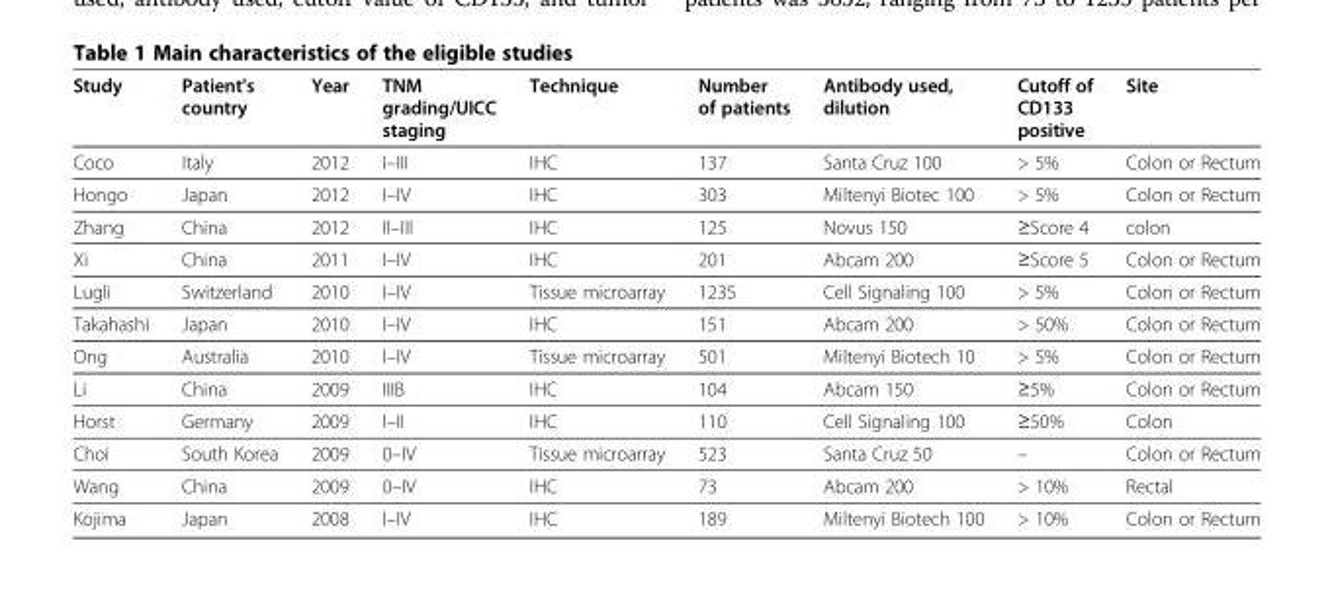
<table><thead><tr><td>Study</td><td>Patient&#x27;s country</td><td>Year</td><td>TNM grading/UICC staging</td><td>Technique</td><td>Number of patients</td><td>Antibody used, dilution</td><td>Cutoff of CD133 positive</td><td>Site</td></tr></thead><tbody><tr><td>Coco</td><td>Italy</td><td>2012</td><td>I–III</td><td>IHC</td><td>137</td><td>Santa Cruz 100</td><td>&gt; 5%</td><td>Colon or Rectum</td></tr><tr><td>Hongo</td><td>Japan</td><td>2012</td><td>I–IV</td><td>IHC</td><td>303</td><td>Miltenyi Biotec 100</td><td>&gt; 5%</td><td>Colon or Rectum</td></tr><tr><td>Zhang</td><td>China</td><td>2012</td><td>II–III</td><td>IHC</td><td>125</td><td>Novus 150</td><td>≥Score 4</td><td>colon</td></tr><tr><td>Xi</td><td>China</td><td>2011</td><td>I–IV</td><td>IHC</td><td>201</td><td>Abcam 200</td><td>≥Score 5</td><td>Colon or Rectum</td></tr><tr><td>Lugli</td><td>Switzerland</td><td>2010</td><td>I–IV</td><td>Tissue microarray</td><td>1235</td><td>Cell Signaling 100</td><td>&gt; 5%</td><td>Colon or Rectum</td></tr><tr><td>Takahashi</td><td>Japan</td><td>2010</td><td>I–IV</td><td>IHC</td><td>151</td><td>Abcam 200</td><td>&gt; 50%</td><td>Colon or Rectum</td></tr><tr><td>Ong</td><td>Australia</td><td>2010</td><td>I–IV</td><td>Tissue microarray</td><td>501</td><td>Miltenyi Biotech 10</td><td>&gt; 5%</td><td>Colon or Rectum</td></tr><tr><td>Li</td><td>China</td><td>2009</td><td>IIIB</td><td>IHC</td><td>104</td><td>Abcam 150</td><td>≥5%</td><td>Colon or Rectum</td></tr><tr><td>Horst</td><td>Germany</td><td>2009</td><td>I–II</td><td>IHC</td><td>110</td><td>Cell Signaling 100</td><td>≥50%</td><td>Colon</td></tr><tr><td>Choi</td><td>South Korea</td><td>2009</td><td>0–IV</td><td>Tissue microarray</td><td>523</td><td>Santa Cruz 50</td><td>–</td><td>Colon or Rectum</td></tr><tr><td>Wang</td><td>China</td><td>2009</td><td>0–IV</td><td>IHC</td><td>73</td><td>Abcam 200</td><td>&gt; 10%</td><td>Rectal</td></tr><tr><td>Kojima</td><td>Japan</td><td>2008</td><td>I–IV</td><td>IHC</td><td>189</td><td>Miltenyi Biotech 100</td><td>&gt; 10%</td><td>Colon or Rectum</td></tr></tbody></table>